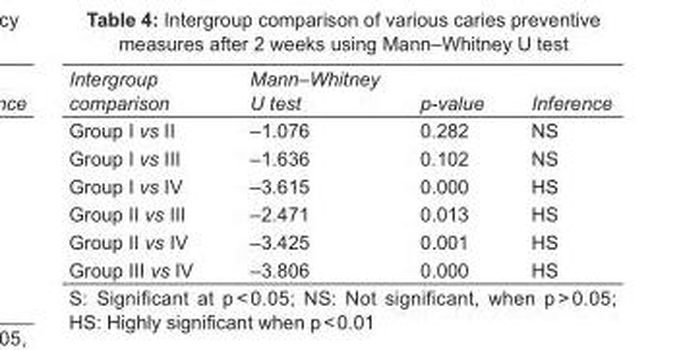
<table><tbody><tr><td>Intergroup comparison</td><td>Mann–Whitney U test</td><td>p-value</td><td>Inference</td></tr><tr><td>Group I vs II</td><td>–1.076</td><td>0.282</td><td>NS</td></tr><tr><td>Group I vs III</td><td>–1.636</td><td>0.102</td><td>NS</td></tr><tr><td>Group I vs IV</td><td>–3.615</td><td>0.000</td><td>HS</td></tr><tr><td>Group II vs III</td><td>–2.471</td><td>0.013</td><td>HS</td></tr><tr><td>Group II vs IV</td><td>–3.425</td><td>0.001</td><td>HS</td></tr><tr><td>Group III vs IV</td><td>–3.806</td><td>0.000</td><td>HS</td></tr></tbody></table>